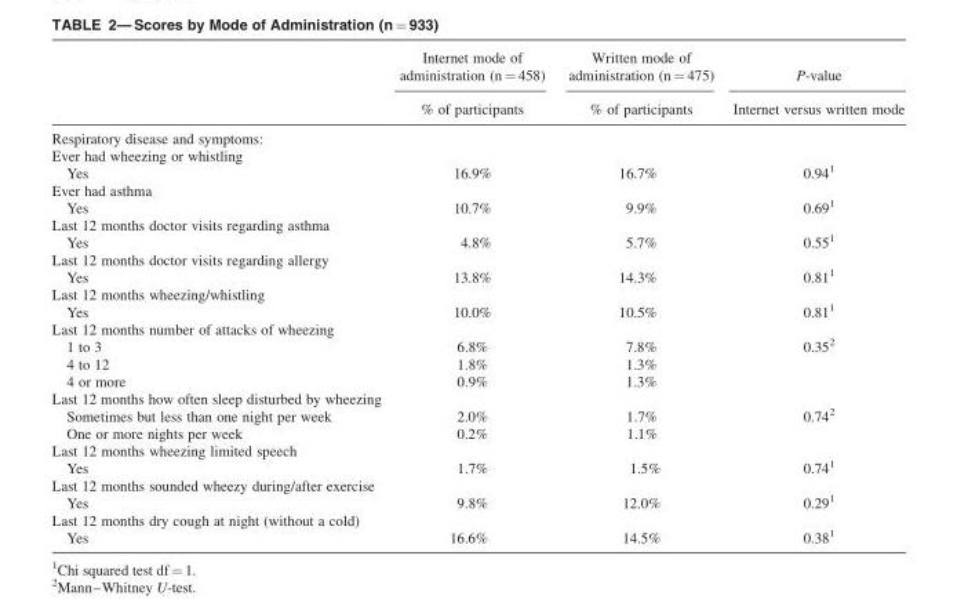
<table><thead><tr><td rowspan="2"></td><td rowspan="2">Internet mode of administration (n = 458) % of participants</td><td rowspan="2">Written mode of administration (n = 475) % of participants</td><td rowspan="2">P-value Internet versus written mode</td></tr><tr></tr></thead><tbody><tr><td colspan="4">Respiratory disease and symptoms:</td></tr><tr><td colspan="4">Ever had wheezing or whistling</td></tr><tr><td>Yes</td><td>16.9%</td><td>16.7%</td><td>0.94<sup>1</sup></td></tr><tr><td colspan="4">Ever had asthma</td></tr><tr><td>Yes</td><td>10.7%</td><td>9.9%</td><td>0.69<sup>1</sup></td></tr><tr><td colspan="4">Last 12 months doctor visits regarding asthma</td></tr><tr><td>Yes</td><td>4.8%</td><td>5.7%</td><td>0.55<sup>1</sup></td></tr><tr><td colspan="4">Last 12 months doctor visits regarding allergy</td></tr><tr><td>Yes</td><td>13.8%</td><td>14.3%</td><td>0.81<sup>1</sup></td></tr><tr><td colspan="4">Last 12 months wheezing/whistling</td></tr><tr><td>Yes</td><td>10.0%</td><td>10.5%</td><td>0.81<sup>1</sup></td></tr><tr><td colspan="4">Last 12 months number of attacks of wheezing</td></tr><tr><td>1 to 3</td><td>6.8%</td><td>7.8%</td><td>0.35<sup>2</sup></td></tr><tr><td>4 to 12</td><td>1.8%</td><td>1.3%</td><td></td></tr><tr><td>4 or more</td><td>0.9%</td><td>1.3%</td><td></td></tr><tr><td colspan="4">Last 12 months how often sleep disturbed by wheezing</td></tr><tr><td>Sometimes but less than one night per week</td><td>2.0%</td><td>1.7%</td><td>0.74<sup>2</sup></td></tr><tr><td>One or more nights per week</td><td>0.2%</td><td>1.1%</td><td></td></tr><tr><td colspan="4">Last 12 months wheezing limited speech</td></tr><tr><td>Yes</td><td>1.7%</td><td>1.5%</td><td>0.74<sup>1</sup></td></tr><tr><td colspan="4">Last 12 months sounded wheezy during/after exercise</td></tr><tr><td>Yes</td><td>9.8%</td><td>12.0%</td><td>0.29<sup>1</sup></td></tr><tr><td colspan="4">Last 12 months dry cough at night (without a cold)</td></tr><tr><td>Yes</td><td>16.6%</td><td>14.5%</td><td>0.38<sup>1</sup></td></tr></tbody></table>